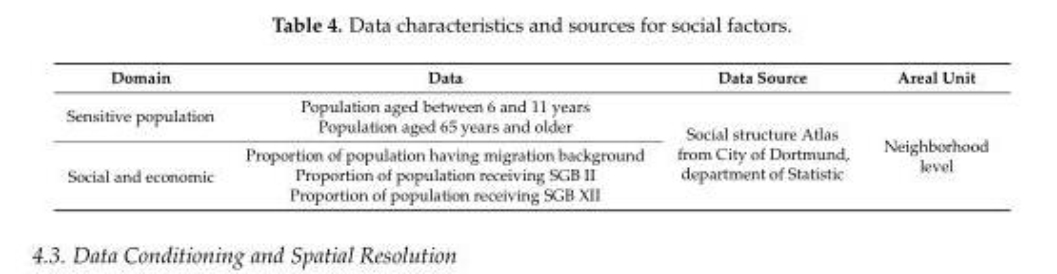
<table><thead><tr><td>Domain</td><td>Data</td><td>Data Source</td><td>Areal Unit</td></tr></thead><tbody><tr><td rowspan="2">Sensitive population</td><td>Population aged between 6 and 11 years</td><td rowspan="5">Social structure Atlas from City of Dortmund, department of Statistic</td><td rowspan="5">Neighborhood level</td></tr><tr><td>Population aged 65 years and older</td></tr><tr><td rowspan="3">Social and economic</td><td>Proportion of population having migration background</td></tr><tr><td>Proportion of population receiving SGB II</td></tr><tr><td>Proportion of population receiving SGB XII</td></tr></tbody></table>